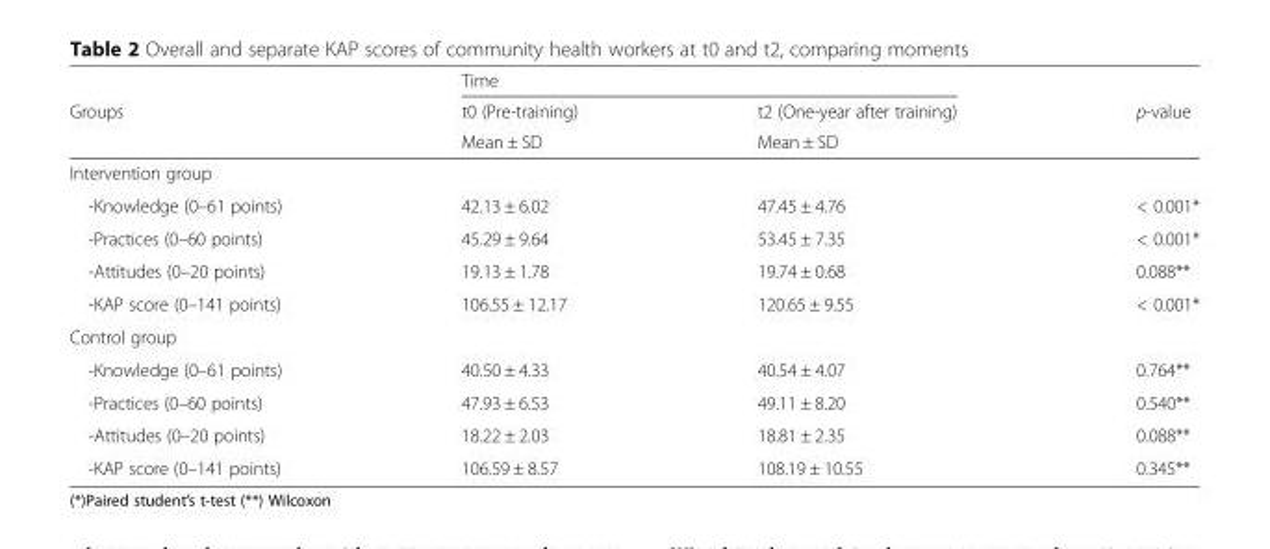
<table><thead><tr><td rowspan="3">Groups</td><td colspan="2">Time</td><td rowspan="3">p-value</td></tr><tr><td rowspan="2">t0 (Pre-training) Mean ± SD</td><td rowspan="2">t2 (One-year after training) Mean ± SD</td></tr><tr></tr></thead><tbody><tr><td colspan="4">Intervention group</td></tr><tr><td>-Knowledge (0–61 points)</td><td>42.13 ± 6.02</td><td>47.45 ± 4.76</td><td>&lt; 0.001*</td></tr><tr><td>-Practices (0–60 points)</td><td>45.29 ± 9.64</td><td>53.45 ± 7.35</td><td>&lt; 0.001*</td></tr><tr><td>-Attitudes (0–20 points)</td><td>19.13 ± 1.78</td><td>19.74 ± 0.68</td><td>0.088**</td></tr><tr><td>-KAP score (0–141 points)</td><td>106.55 ± 12.17</td><td>120.65 ± 9.55</td><td>&lt; 0.001*</td></tr><tr><td colspan="4">Control group</td></tr><tr><td>-Knowledge (0–61 points)</td><td>40.50 ± 4.33</td><td>40.54 ± 4.07</td><td>0.764**</td></tr><tr><td>-Practices (0–60 points)</td><td>47.93 ± 6.53</td><td>49.11 ± 8.20</td><td>0.540**</td></tr><tr><td>-Attitudes (0–20 points)</td><td>18.22 ± 2.03</td><td>18.81 ± 2.35</td><td>0.088**</td></tr><tr><td>-KAP score (0–141 points)</td><td>106.59 ± 8.57</td><td>108.19 ± 10.55</td><td>0.345**</td></tr></tbody></table>